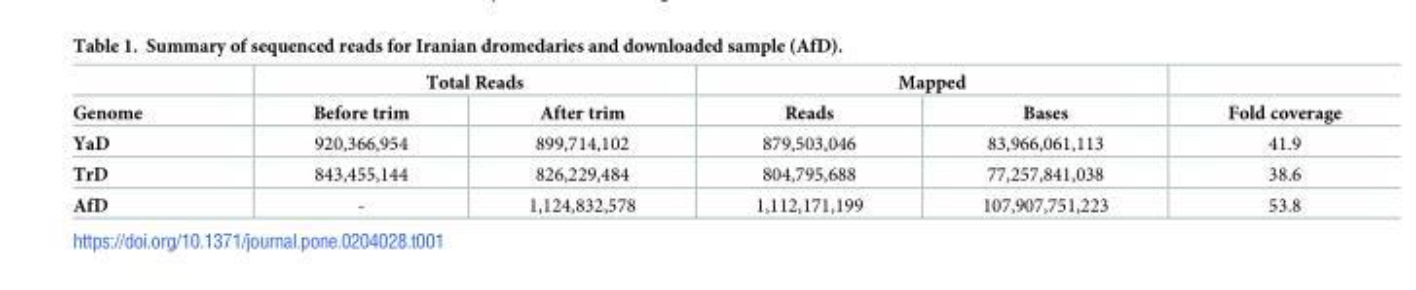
<table><thead><tr><td rowspan="2">Genome</td><td colspan="2">Total Reads</td><td colspan="2">Mapped</td><td rowspan="2">Fold coverage</td></tr><tr><td>Before trim</td><td>After trim</td><td>Reads</td><td>Bases</td></tr></thead><tbody><tr><td>YaD</td><td>920,366,954</td><td>899,714,102</td><td>879,503,046</td><td>83,966,061,113</td><td>41.9</td></tr><tr><td>TrD</td><td>843,455,144</td><td>826,229,484</td><td>804,795,688</td><td>77,257,841,038</td><td>38.6</td></tr><tr><td>AfD</td><td>-</td><td>1,124,832,578</td><td>1,112,171,199</td><td>107,907,751,223</td><td>53.8</td></tr></tbody></table>